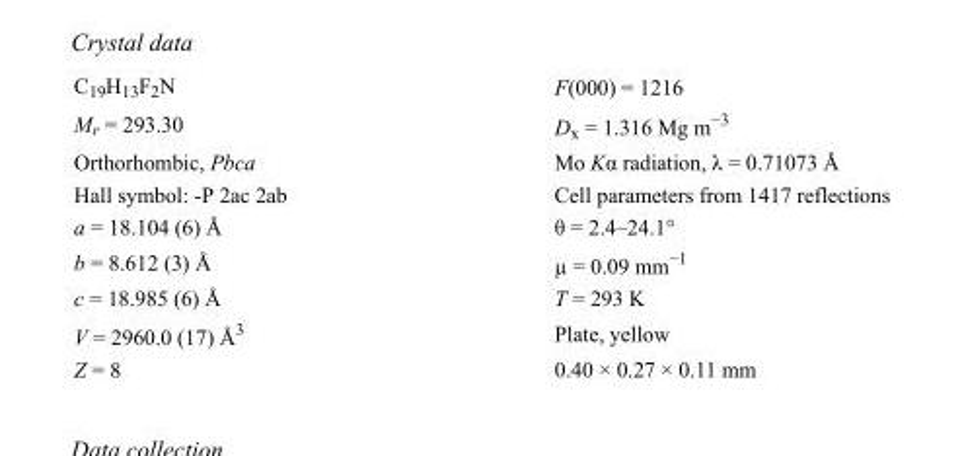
<table><tbody><tr><td>C<sub>19</sub>H<sub>13</sub>F<sub>2</sub>N</td><td>F(000) = 1216</td></tr><tr><td>M<sub>r</sub> = 293.30</td><td>D<sub>x</sub> = 1.316 Mg m<sup>−3</sup></td></tr><tr><td>Orthorhombic, Pbca</td><td>Mo Kα radiation, λ = 0.71073 Å</td></tr><tr><td>Hall symbol: -P 2ac 2ab</td><td>Cell parameters from 1417 reflections</td></tr><tr><td>a = 18.104 (6) Å</td><td>θ = 2.4–24.1°</td></tr><tr><td>b = 8.612 (3) Å</td><td>µ = 0.09 mm<sup>−1</sup></td></tr><tr><td>c = 18.985 (6) Å</td><td>T = 293 K</td></tr><tr><td>V = 2960.0 (17) Å<sup>3</sup></td><td>Plate, yellow</td></tr><tr><td>Z = 8</td><td>0.40 × 0.27 × 0.11 mm</td></tr></tbody></table>